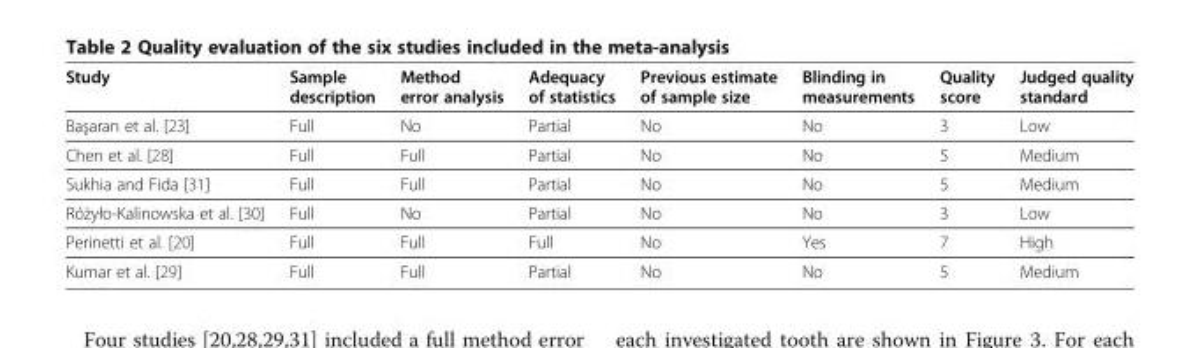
<table><thead><tr><td>Study</td><td>Sample description</td><td>Method error analysis</td><td>Adequacy of statistics</td><td>Previous estimate of sample size</td><td>Blinding in measurements</td><td>Quality score</td><td>Judged quality standard</td></tr></thead><tbody><tr><td>Başaran et al. [23]</td><td>Full</td><td>No</td><td>Partial</td><td>No</td><td>No</td><td>3</td><td>Low</td></tr><tr><td>Chen et al. [28]</td><td>Full</td><td>Full</td><td>Partial</td><td>No</td><td>No</td><td>5</td><td>Medium</td></tr><tr><td>Sukhia and Fida [31]</td><td>Full</td><td>Full</td><td>Partial</td><td>No</td><td>No</td><td>5</td><td>Medium</td></tr><tr><td>Różyło-Kalinowska et al. [30]</td><td>Full</td><td>No</td><td>Partial</td><td>No</td><td>No</td><td>3</td><td>Low</td></tr><tr><td>Perinetti et al. [20]</td><td>Full</td><td>Full</td><td>Full</td><td>No</td><td>Yes</td><td>7</td><td>High</td></tr><tr><td>Kumar et al. [29]</td><td>Full</td><td>Full</td><td>Partial</td><td>No</td><td>No</td><td>5</td><td>Medium</td></tr></tbody></table>